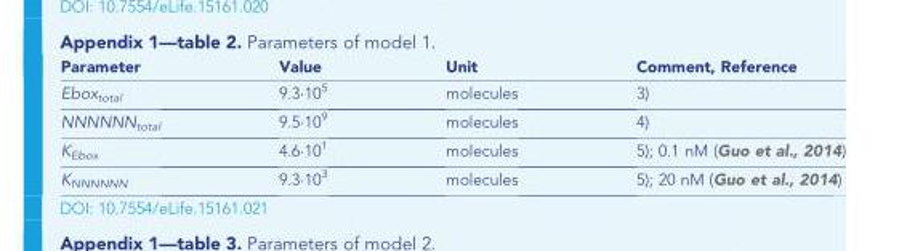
<table><thead><tr><td>Parameter</td><td>Value</td><td>Unit</td><td>Comment, Reference</td></tr></thead><tbody><tr><td>Ebox<sub>total</sub></td><td>9.3·10<sup>5</sup></td><td>molecules</td><td>3)</td></tr><tr><td>NNNNNN<sub>total</sub></td><td>9.5·10<sup>9</sup></td><td>molecules</td><td>4)</td></tr><tr><td>K<sub>Ebox</sub></td><td>4.6·10<sup>1</sup></td><td>molecules</td><td>5); 0.1 nM (Guo et al., 2014)</td></tr><tr><td>K<sub>NNNNNN</sub></td><td>9.3·10<sup>3</sup></td><td>molecules</td><td>5); 20 nM (Guo et al., 2014)</td></tr></tbody></table>